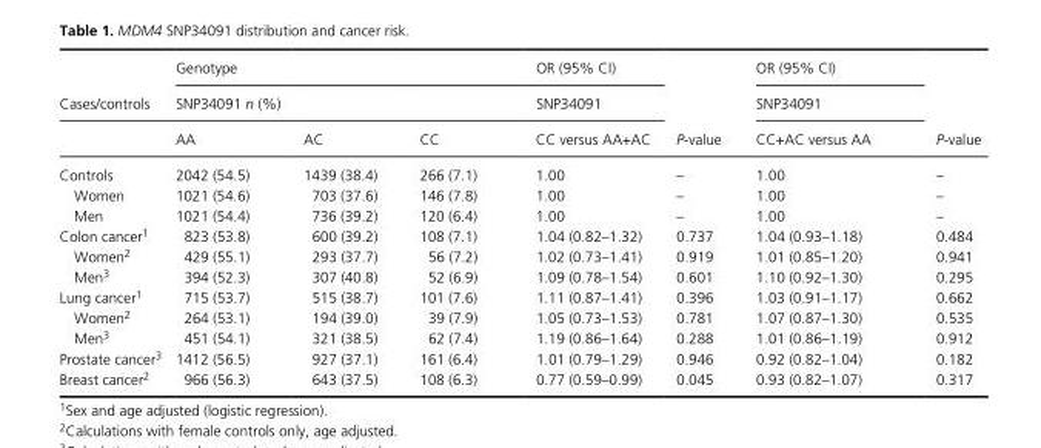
<table><thead><tr><td rowspan="3">Cases/controls</td><td rowspan="2" colspan="3">Genotype SNP34091 n (%)</td><td rowspan="3">OR (95% CI) SNP34091 CC versus AA+AC</td><td rowspan="3">P- value</td><td rowspan="3">OR (95% CI) SNP34091 CC+AC versus AA</td><td rowspan="3">P- value</td></tr><tr></tr><tr><td>AA</td><td>AC</td><td>CC</td></tr></thead><tbody><tr><td>Controls</td><td>2042 (54.5)</td><td>1439 (38.4)</td><td>266 (7.1)</td><td>1.00</td><td>–</td><td>1.00</td><td>–</td></tr><tr><td>Women</td><td>1021 (54.6)</td><td>703 (37.6)</td><td>146 (7.8)</td><td>1.00</td><td>–</td><td>1.00</td><td>–</td></tr><tr><td>Men</td><td>1021 (54.4)</td><td>736 (39.2)</td><td>120 (6.4)</td><td>1.00</td><td>–</td><td>1.00</td><td>–</td></tr><tr><td>Colon cancer1</td><td>823 (53.8)</td><td>600 (39.2)</td><td>108 (7.1)</td><td>1.04 (0.82–1.32)</td><td>0.737</td><td>1.04 (0.93–1.18)</td><td>0.484</td></tr><tr><td>Women2</td><td>429 (55.1)</td><td>293 (37.7)</td><td>56 (7.2)</td><td>1.02 (0.73–1.41)</td><td>0.919</td><td>1.01 (0.85–1.20)</td><td>0.941</td></tr><tr><td>Men3</td><td>394 (52.3)</td><td>307 (40.8)</td><td>52 (6.9)</td><td>1.09 (0.78–1.54)</td><td>0.601</td><td>1.10 (0.92–1.30)</td><td>0.295</td></tr><tr><td>Lung cancer1</td><td>715 (53.7)</td><td>515 (38.7)</td><td>101 (7.6)</td><td>1.11 (0.87–1.41)</td><td>0.396</td><td>1.03 (0.91–1.17)</td><td>0.662</td></tr><tr><td>Women2</td><td>264 (53.1)</td><td>194 (39.0)</td><td>39 (7.9)</td><td>1.05 (0.73–1.53)</td><td>0.781</td><td>1.07 (0.87–1.30)</td><td>0.535</td></tr><tr><td>Men3</td><td>451 (54.1)</td><td>321 (38.5)</td><td>62 (7.4)</td><td>1.19 (0.86–1.64)</td><td>0.288</td><td>1.01 (0.86–1.19)</td><td>0.912</td></tr><tr><td>Prostate cancer3</td><td>1412 (56.5)</td><td>927 (37.1)</td><td>161 (6.4)</td><td>1.01 (0.79–1.29)</td><td>0.946</td><td>0.92 (0.82–1.04)</td><td>0.182</td></tr><tr><td>Breast cancer2</td><td>966 (56.3)</td><td>643 (37.5)</td><td>108 (6.3)</td><td>0.77 (0.59–0.99)</td><td>0.045</td><td>0.93 (0.82–1.07)</td><td>0.317</td></tr></tbody></table>